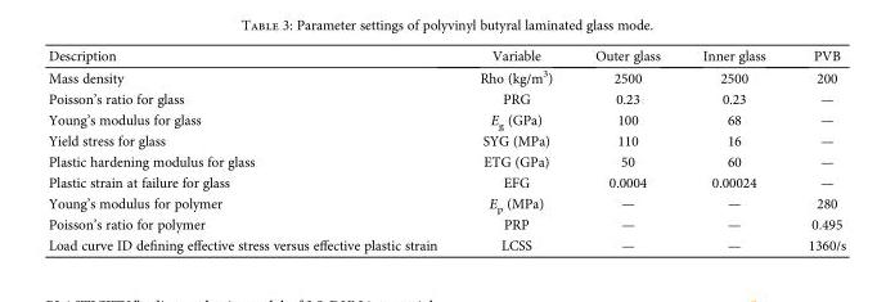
<table><thead><tr><td>Description</td><td>Variable</td><td>Outer glass</td><td>Inner glass</td><td>PVB</td></tr></thead><tbody><tr><td>Mass density</td><td>Rho (kg/m<sup>3</sup>)</td><td>2500</td><td>2500</td><td>200</td></tr><tr><td>Poisson’s ratio for glass</td><td>PRG</td><td>0.23</td><td>0.23</td><td>—</td></tr><tr><td>Young’s modulus for glass</td><td>E<sub>g</sub> (GPa)</td><td>100</td><td>68</td><td>—</td></tr><tr><td>Yield stress for glass</td><td>SYG (MPa)</td><td>110</td><td>16</td><td>—</td></tr><tr><td>Plastic hardening modulus for glass</td><td>ETG (GPa)</td><td>50</td><td>60</td><td>—</td></tr><tr><td>Plastic strain at failure for glass</td><td>EFG</td><td>0.0004</td><td>0.00024</td><td>—</td></tr><tr><td>Young’s modulus for polymer</td><td>E<sub>p</sub> (MPa)</td><td>—</td><td>—</td><td>280</td></tr><tr><td>Poisson’s ratio for polymer</td><td>PRP</td><td>—</td><td>—</td><td>0.495</td></tr><tr><td>Load curve ID defining effective stress versus effective plastic strain</td><td>LCSS</td><td>—</td><td>—</td><td>1360/s</td></tr></tbody></table>